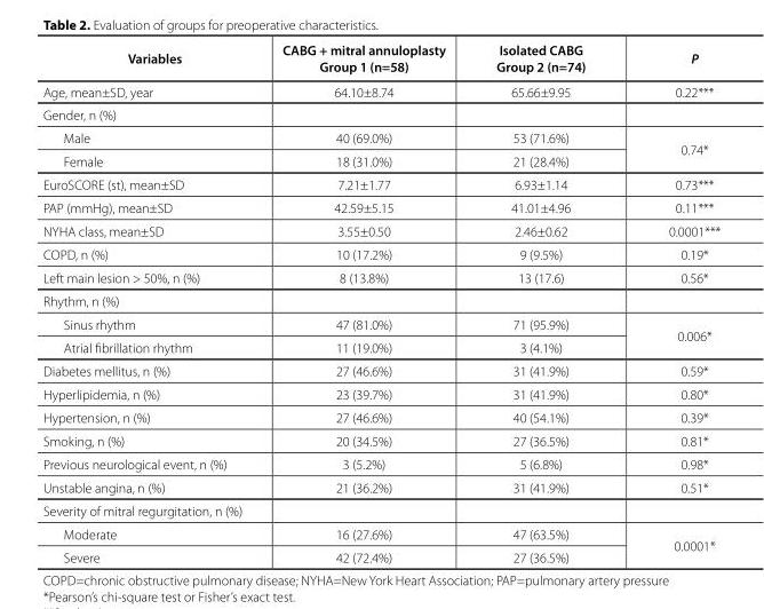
<table><thead><tr><td>Variables</td><td>CABG + mitral annuloplasty Group 1 (n=58)</td><td>Isolated CABG Group 2 (n=74)</td><td>P</td></tr></thead><tbody><tr><td>Age, mean±SD, year</td><td>64.10±8.74</td><td>65.66±9.95</td><td>0.22***</td></tr><tr><td colspan="4">Gender, n (%)</td></tr><tr><td>Male</td><td>40 (69.0%)</td><td>53 (71.6%)</td><td rowspan="2">0.74*</td></tr><tr><td>Female</td><td>18 (31.0%)</td><td>21 (28.4%)</td></tr><tr><td>EuroSCORE (st), mean±SD</td><td>7.21±1.77</td><td>6.93±1.14</td><td>0.73***</td></tr><tr><td>PAP (mmHg), mean±SD</td><td>42.59±5.15</td><td>41.01±4.96</td><td>0.11***</td></tr><tr><td>NYHA class, mean±SD</td><td>3.55±0.50</td><td>2.46±0.62</td><td>0.0001***</td></tr><tr><td>COPD, n (%)</td><td>10 (17.2%)</td><td>9 (9.5%)</td><td>0.19*</td></tr><tr><td>Left main lesion &gt; 50%, n (%)</td><td>8 (13.8%)</td><td>13 (17.6)</td><td>0.56*</td></tr><tr><td colspan="4">Rhythm, n (%)</td></tr><tr><td>Sinus rhythm</td><td>47 (81.0%)</td><td>71 (95.9%)</td><td rowspan="2">0.006*</td></tr><tr><td>Atrial fibrillation rhythm</td><td>11 (19.0%)</td><td>3 (4.1%)</td></tr><tr><td>Diabetes mellitus, n (%)</td><td>27 (46.6%)</td><td>31 (41.9%)</td><td>0.59*</td></tr><tr><td>Hyperlipidemia, n (%)</td><td>23 (39.7%)</td><td>31 (41.9%)</td><td>0.80*</td></tr><tr><td>Hypertension, n (%)</td><td>27 (46.6%)</td><td>40 (54.1%)</td><td>0.39*</td></tr><tr><td>Smoking, n (%)</td><td>20 (34.5%)</td><td>27 (36.5%)</td><td>0.81*</td></tr><tr><td>Previous neurological event, n (%)</td><td>3 (5.2%)</td><td>5 (6.8%)</td><td>0.98*</td></tr><tr><td>Unstable angina, n (%)</td><td>21 (36.2%)</td><td>31 (41.9%)</td><td>0.51*</td></tr><tr><td colspan="4">Severity of mitral regurgitation, n (%)</td></tr><tr><td>Moderate</td><td>16 (27.6%)</td><td>47 (63.5%)</td><td rowspan="2">0.0001*</td></tr><tr><td>Severe</td><td>42 (72.4%)</td><td>27 (36.5%)</td></tr></tbody></table>